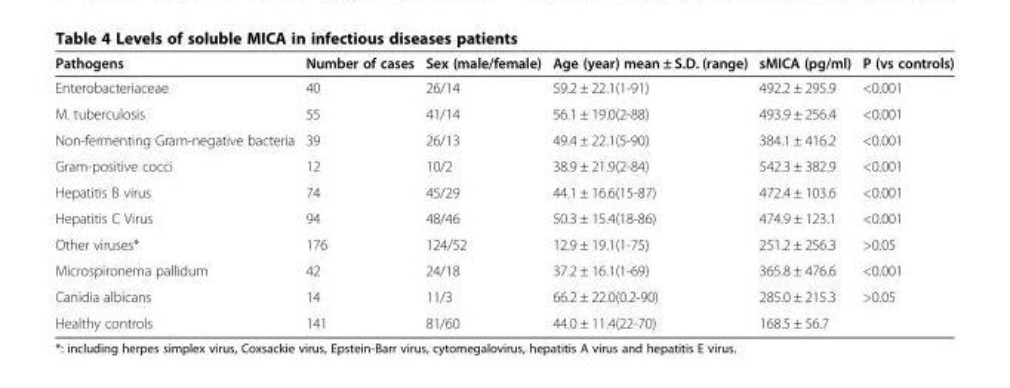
<table><thead><tr><td>Pathogens</td><td>Number of cases</td><td>Sex (male/female)</td><td>Age (year) mean ± S.D. (range)</td><td>sMICA (pg/ml)</td><td>P (vs controls)</td></tr></thead><tbody><tr><td>Enterobacteriaceae</td><td>40</td><td>26/14</td><td>59.2 ± 22.1(1-91)</td><td>492.2 ± 295.9</td><td>&lt;0.001</td></tr><tr><td>M. tuberculosis</td><td>55</td><td>41/14</td><td>56.1 ± 19.0(2-88)</td><td>493.9 ± 256.4</td><td>&lt;0.001</td></tr><tr><td>Non-fermenting Gram-negative bacteria</td><td>39</td><td>26/13</td><td>49.4 ± 22.1(5-90)</td><td>384.1 ± 416.2</td><td>&lt;0.001</td></tr><tr><td>Gram-positive cocci</td><td>12</td><td>10/2</td><td>38.9 ± 21.9(2-84)</td><td>542.3 ± 382.9</td><td>&lt;0.001</td></tr><tr><td>Hepatitis B virus</td><td>74</td><td>45/29</td><td>44.1 ± 16.6(15-87)</td><td>472.4 ± 103.6</td><td>&lt;0.001</td></tr><tr><td>Hepatitis C Virus</td><td>94</td><td>48/46</td><td>50.3 ± 15.4(18-86)</td><td>474.9 ± 123.1</td><td>&lt;0.001</td></tr><tr><td>Other viruses*</td><td>176</td><td>124/52</td><td>12.9 ± 19.1(1-75)</td><td>251.2 ± 256.3</td><td>&gt;0.05</td></tr><tr><td>Microspironema pallidum</td><td>42</td><td>24/18</td><td>37.2 ± 16.1(1-69)</td><td>365.8 ± 476.6</td><td>&lt;0.001</td></tr><tr><td>Canidia albicans</td><td>14</td><td>11/3</td><td>66.2 ± 22.0(0.2-90)</td><td>285.0 ± 215.3</td><td>&gt;0.05</td></tr><tr><td>Healthy controls</td><td>141</td><td>81/60</td><td>44.0 ± 11.4(22-70)</td><td>168.5 ± 56.7</td><td></td></tr></tbody></table>